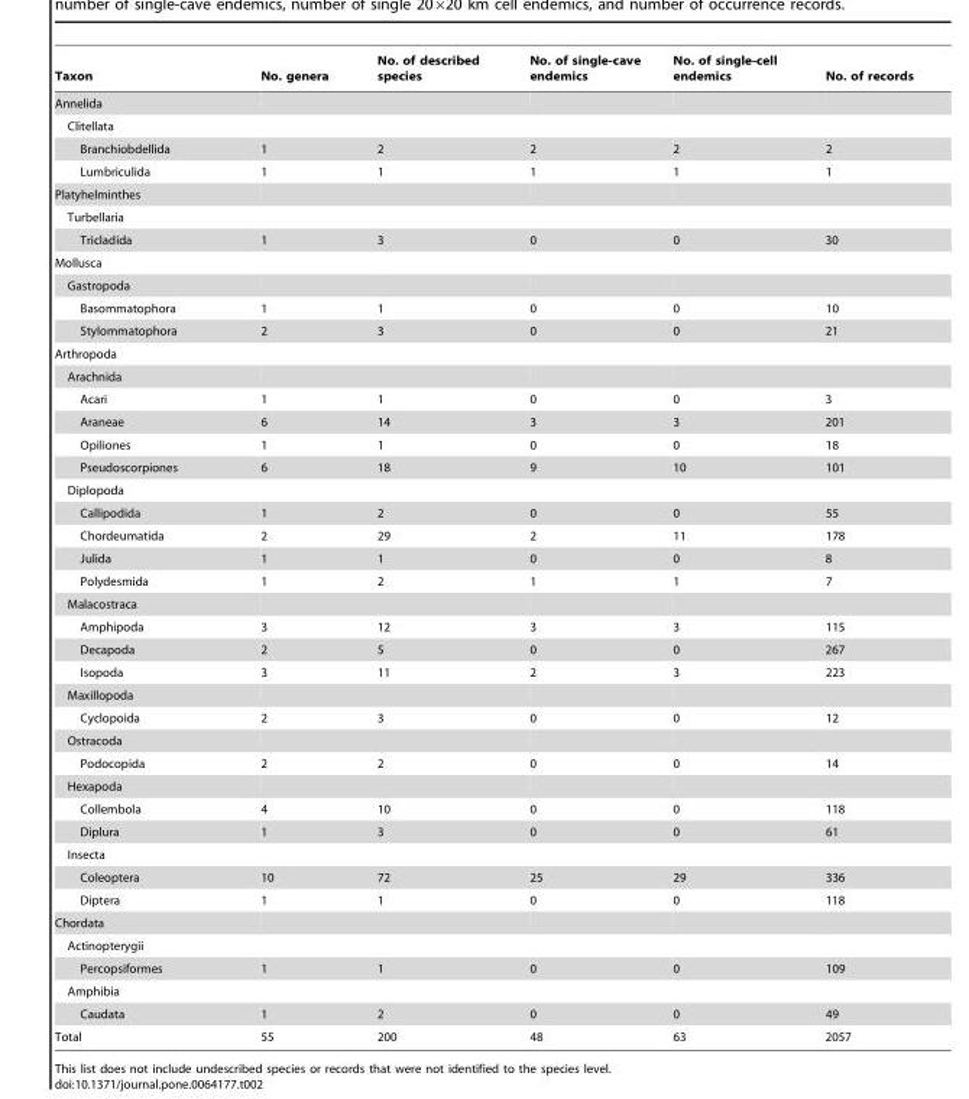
<table><thead><tr><td>Taxon</td><td>No. genera</td><td>No. of described species</td><td>No. of single-cave endemics</td><td>No. of single-cell endemics</td><td>No. of records</td></tr></thead><tbody><tr><td colspan="6">Annelida</td></tr><tr><td colspan="6">Clitellata</td></tr><tr><td>Branchiobdellida</td><td>1</td><td>2</td><td>2</td><td>2</td><td>2</td></tr><tr><td>Lumbriculida</td><td>1</td><td>1</td><td>1</td><td>1</td><td>1</td></tr><tr><td colspan="6">Platyhelminthes</td></tr><tr><td colspan="6">Turbellaria</td></tr><tr><td>Tricladida</td><td>1</td><td>3</td><td>0</td><td>0</td><td>30</td></tr><tr><td colspan="6">Mollusca</td></tr><tr><td colspan="6">Gastropoda</td></tr><tr><td>Basommatophora</td><td>1</td><td>1</td><td>0</td><td>0</td><td>10</td></tr><tr><td>Stylommatophora</td><td>2</td><td>3</td><td>0</td><td>0</td><td>21</td></tr><tr><td colspan="6">Arthropoda</td></tr><tr><td colspan="6">Arachnida</td></tr><tr><td>Acari</td><td>1</td><td>1</td><td>0</td><td>0</td><td>3</td></tr><tr><td>Araneae</td><td>6</td><td>14</td><td>3</td><td>3</td><td>201</td></tr><tr><td>Opiliones</td><td>1</td><td>1</td><td>0</td><td>0</td><td>18</td></tr><tr><td>Pseudoscorpiones</td><td>6</td><td>18</td><td>9</td><td>10</td><td>101</td></tr><tr><td colspan="6">Diplopoda</td></tr><tr><td>Callipodida</td><td>1</td><td>2</td><td>0</td><td>0</td><td>55</td></tr><tr><td>Chordeumatida</td><td>2</td><td>29</td><td>2</td><td>11</td><td>178</td></tr><tr><td>Julida</td><td>1</td><td>1</td><td>0</td><td>0</td><td>8</td></tr><tr><td>Polydesmida</td><td>1</td><td>2</td><td>1</td><td>1</td><td>7</td></tr><tr><td colspan="6">Malacostraca</td></tr><tr><td>Amphipoda</td><td>3</td><td>12</td><td>3</td><td>3</td><td>115</td></tr><tr><td>Decapoda</td><td>2</td><td>5</td><td>0</td><td>0</td><td>267</td></tr><tr><td>Isopoda</td><td>3</td><td>11</td><td>2</td><td>3</td><td>223</td></tr><tr><td colspan="6">Maxillopoda</td></tr><tr><td>Cyclopoida</td><td>2</td><td>3</td><td>0</td><td>0</td><td>12</td></tr><tr><td colspan="6">Ostracoda</td></tr><tr><td>Podocopida</td><td>2</td><td>2</td><td>0</td><td>0</td><td>14</td></tr><tr><td colspan="6">Hexapoda</td></tr><tr><td>Collembola</td><td>4</td><td>10</td><td>0</td><td>0</td><td>118</td></tr><tr><td>Diplura</td><td>1</td><td>3</td><td>0</td><td>0</td><td>61</td></tr><tr><td colspan="6">Insecta</td></tr><tr><td>Coleoptera</td><td>10</td><td>72</td><td>25</td><td>29</td><td>336</td></tr><tr><td>Diptera</td><td>1</td><td>1</td><td>0</td><td>0</td><td>118</td></tr><tr><td colspan="6">Chordata</td></tr><tr><td colspan="6">Actinopterygii</td></tr><tr><td>Percopsiformes</td><td>1</td><td>1</td><td>0</td><td>0</td><td>109</td></tr><tr><td colspan="6">Amphibia</td></tr><tr><td>Caudata</td><td>1</td><td>2</td><td>0</td><td>0</td><td>49</td></tr><tr><td>Total</td><td>55</td><td>200</td><td>48</td><td>63</td><td>2057</td></tr></tbody></table>